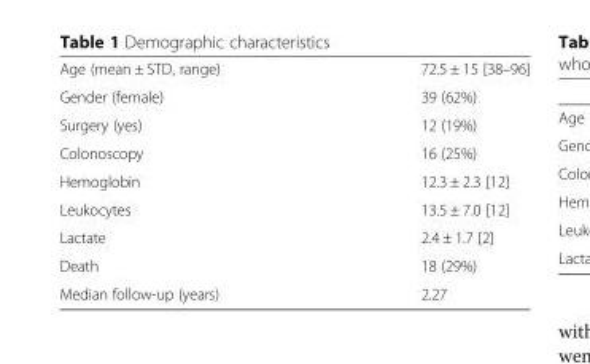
<table><tbody><tr><td>Age (mean ± STD, range)</td><td>72.5 ± 15 [38–96]</td></tr><tr><td>Gender (female)</td><td>39 (62%)</td></tr><tr><td>Surgery (yes)</td><td>12 (19%)</td></tr><tr><td>Colonoscopy</td><td>16 (25%)</td></tr><tr><td>Hemoglobin</td><td>12.3 ± 2.3 [12]</td></tr><tr><td>Leukocytes</td><td>13.5 ± 7.0 [12]</td></tr><tr><td>Lactate</td><td>2.4 ± 1.7 [2]</td></tr><tr><td>Death</td><td>18 (29%)</td></tr><tr><td>Median follow-up (years)</td><td>2.27</td></tr></tbody></table>